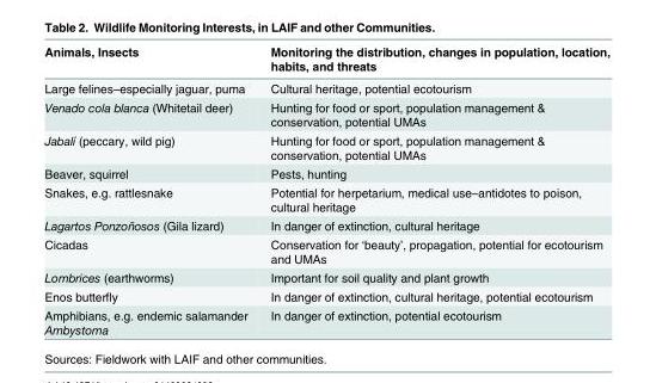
<table><thead><tr><td>Animals, Insects</td><td>Monitoring the distribution, changes in population, location, habits, and threats</td></tr></thead><tbody><tr><td>Large felines–especially jaguar, puma</td><td>Cultural heritage, potential ecotourism</td></tr><tr><td>Venado cola blanca (Whitetail deer)</td><td>Hunting for food or sport, population management &amp; conservation, potential UMAs</td></tr><tr><td>Jabalí (peccary, wild pig)</td><td>Hunting for food or sport, population management &amp; conservation, potential UMAs</td></tr><tr><td>Beaver, squirrel</td><td>Pests, hunting</td></tr><tr><td>Snakes, e.g. rattlesnake</td><td>Potential for herpetarium, medical use–antidotes to poison, cultural heritage</td></tr><tr><td>Lagartos Ponzoñosos (Gila lizard)</td><td>In danger of extinction, cultural heritage</td></tr><tr><td>Cicadas</td><td>Conservation for ‘beauty’, propagation, potential for ecotourism and UMAs</td></tr><tr><td>Lombrices (earthworms)</td><td>Important for soil quality and plant growth</td></tr><tr><td>Enos butterfly</td><td>In danger of extinction, cultural heritage, potential ecotourism</td></tr><tr><td>Amphibians, e.g. endemic salamander Ambystoma</td><td>In danger of extinction, potential ecotourism</td></tr></tbody></table>